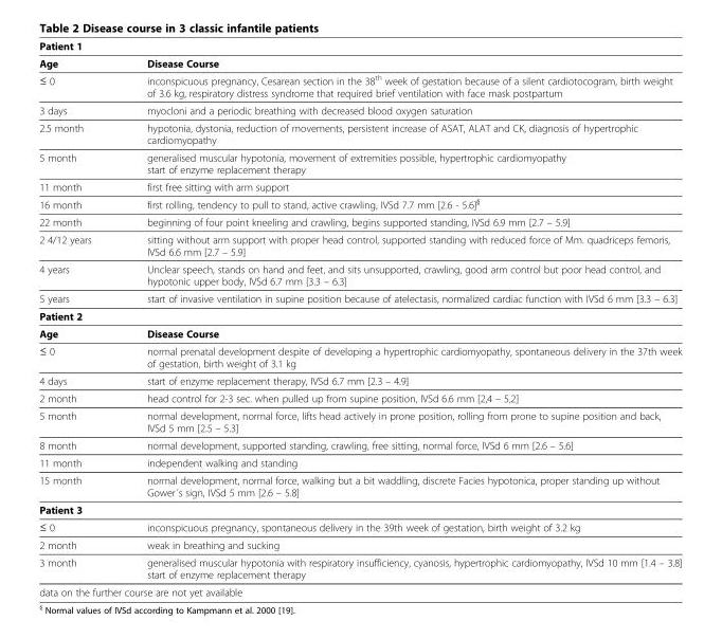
<table><tbody><tr><td colspan="2">Patient 1</td></tr><tr><td>Age</td><td>Disease Course</td></tr><tr><td>≤ 0</td><td>inconspicuous pregnancy, Cesarean section in the 38<sup>th</sup> week of gestation because of a silent cardiotocogram, birth weight of 3.6 kg, respiratory distress syndrome that required brief ventilation with face mask postpartum</td></tr><tr><td>3 days</td><td>myocloni and a periodic breathing with decreased blood oxygen saturation</td></tr><tr><td>2.5 month</td><td>hypotonia, dystonia, reduction of movements, persistent increase of ASAT, ALAT and CK, diagnosis of hypertrophic cardiomyopathy</td></tr><tr><td>5 month</td><td>generalised muscular hypotonia, movement of extremities possible, hypertrophic cardiomyopathy start of enzyme replacement therapy</td></tr><tr><td>11 month</td><td>first free sitting with arm support</td></tr><tr><td>16 month</td><td>first rolling, tendency to pull to stand, active crawling, IVSd 7.7 mm [2.6 - 5.6]<sup>§</sup></td></tr><tr><td>22 month</td><td>beginning of four point kneeling and crawling, begins supported standing, IVSd 6.9 mm [2.7 – 5.9]</td></tr><tr><td>2 4/12 years</td><td>sitting without arm support with proper head control, supported standing with reduced force of Mm. quadriceps femoris, IVSd 6.6 mm [2.7 – 5.9]</td></tr><tr><td>4 years</td><td>Unclear speech, stands on hand and feet, and sits unsupported, crawling, good arm control but poor head control, and hypotonic upper body, IVSd 6.7 mm [3.3 – 6.3]</td></tr><tr><td>5 years</td><td>start of invasive ventilation in supine position because of atelectasis, normalized cardiac function with IVSd 6 mm [3.3 – 6.3]</td></tr><tr><td colspan="2">Patient 2</td></tr><tr><td>Age</td><td>Disease Course</td></tr><tr><td>≤ 0</td><td>normal prenatal development despite of developing a hypertrophic cardiomyopathy, spontaneous delivery in the 37th week of gestation, birth weight of 3.1 kg</td></tr><tr><td>4 days</td><td>start of enzyme replacement therapy, IVSd 6.7 mm [2.3 – 4.9]</td></tr><tr><td>2 month</td><td>head control for 2-3 sec. when pulled up from supine position, IVSd 6.6 mm [2,4 – 5,2]</td></tr><tr><td>5 month</td><td>normal development, normal force, lifts head actively in prone position, rolling from prone to supine position and back, IVSd 5 mm [2.5 – 5.3]</td></tr><tr><td>8 month</td><td>normal development, supported standing, crawling, free sitting, normal force, IVSd 6 mm [2.6 – 5.6]</td></tr><tr><td>11 month</td><td>independent walking and standing</td></tr><tr><td>15 month</td><td>normal development, normal force, walking but a bit waddling, discrete Facies hypotonica, proper standing up without Gower´s sign, IVSd 5 mm [2.6 – 5.8]</td></tr><tr><td colspan="2">Patient 3</td></tr><tr><td>≤ 0</td><td>inconspicuous pregnancy, spontaneous delivery in the 39th week of gestation, birth weight of 3.2 kg</td></tr><tr><td>2 month</td><td>weak in breathing and sucking</td></tr><tr><td>3 month</td><td>generalised muscular hypotonia with respiratory insufficiency, cyanosis, hypertrophic cardiomyopathy, IVSd 10 mm [1.4 – 3.8] start of enzyme replacement therapy</td></tr><tr><td colspan="2">data on the further course are not yet available</td></tr></tbody></table>